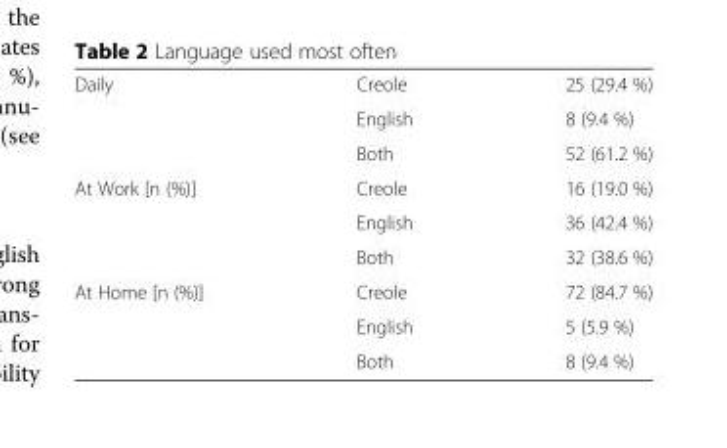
<table><tbody><tr><td rowspan="3">Daily</td><td>Creole</td><td>25 (29.4 %)</td></tr><tr><td>English</td><td>8 (9.4 %)</td></tr><tr><td>Both</td><td>52 (61.2 %)</td></tr><tr><td rowspan="3">At Work [n (%)]</td><td>Creole</td><td>16 (19.0 %)</td></tr><tr><td>English</td><td>36 (42.4 %)</td></tr><tr><td>Both</td><td>32 (38.6 %)</td></tr><tr><td rowspan="3">At Home [n (%)]</td><td>Creole</td><td>72 (84.7 %)</td></tr><tr><td>English</td><td>5 (5.9 %)</td></tr><tr><td>Both</td><td>8 (9.4 %)</td></tr></tbody></table>